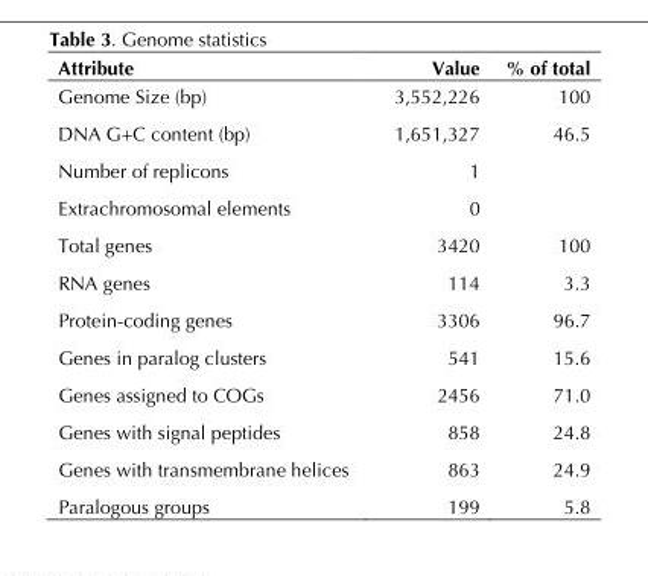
<table><thead><tr><td>Attribute</td><td>Value</td><td>% of total</td></tr></thead><tbody><tr><td>Genome Size (bp)</td><td>3,552,226</td><td>100</td></tr><tr><td>DNA G+C content (bp)</td><td>1,651,327</td><td>46.5</td></tr><tr><td>Number of replicons</td><td>1</td><td></td></tr><tr><td>Extrachromosomal elements</td><td>0</td><td></td></tr><tr><td>Total genes</td><td>3420</td><td>100</td></tr><tr><td>RNA genes</td><td>114</td><td>3.3</td></tr><tr><td>Protein-coding genes</td><td>3306</td><td>96.7</td></tr><tr><td>Genes in paralog clusters</td><td>541</td><td>15.6</td></tr><tr><td>Genes assigned to COGs</td><td>2456</td><td>71.0</td></tr><tr><td>Genes with signal peptides</td><td>858</td><td>24.8</td></tr><tr><td>Genes with transmembrane helices</td><td>863</td><td>24.9</td></tr><tr><td>Paralogous groups</td><td>199</td><td>5.8</td></tr></tbody></table>